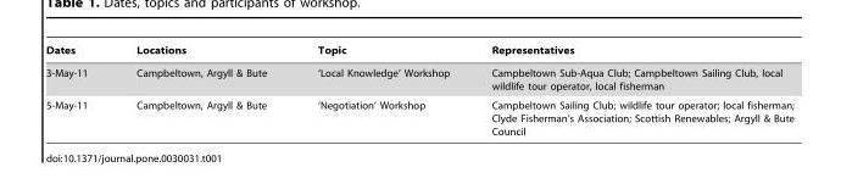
<table><thead><tr><td>Dates</td><td>Locations</td><td>Topic</td><td>Representatives</td></tr></thead><tbody><tr><td>3-May-11</td><td>Campbeltown, Argyll &amp; Bute</td><td>‘Local Knowledge’ Workshop</td><td>Campbeltown Sub-Aqua Club; Campbeltown Sailing Club, local wildlife tour operator, local fisherman</td></tr><tr><td>5-May-11</td><td>Campbeltown, Argyll &amp; Bute</td><td>‘Negotiation’ Workshop</td><td>Campbeltown Sailing Club; wildlife tour operator; local fisherman; Clyde Fisherman’s Association; Scottish Renewables; Argyll &amp; Bute Council</td></tr></tbody></table>